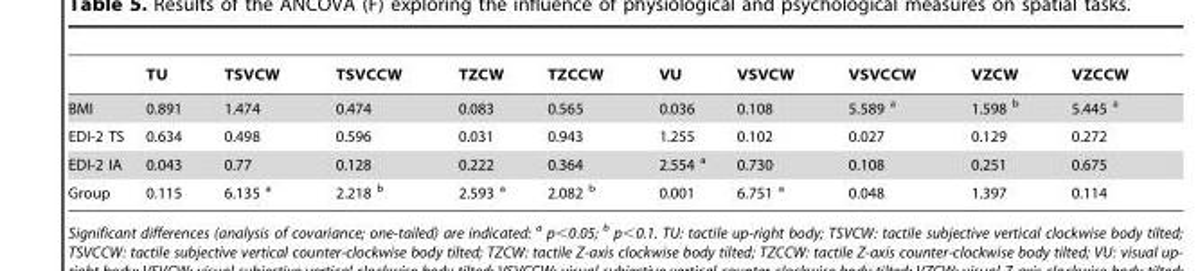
<table><thead><tr><td></td><td>TU</td><td>TSVCW</td><td>TSVCCW</td><td>TZCW</td><td>TZCCW</td><td>VU</td><td>VSVCW</td><td>VSVCCW</td><td>VZCW</td><td>VZCCW</td></tr></thead><tbody><tr><td>BMI</td><td>0.891</td><td>1.474</td><td>0.474</td><td>0.083</td><td>0.565</td><td>0.036</td><td>0.108</td><td>5.589 <sup>a</sup></td><td>1.598 <sup>b</sup></td><td>5.445 <sup>a</sup></td></tr><tr><td>EDI-2 TS</td><td>0.634</td><td>0.498</td><td>0.596</td><td>0.031</td><td>0.943</td><td>1.255</td><td>0.102</td><td>0.027</td><td>0.129</td><td>0.272</td></tr><tr><td>EDI-2 IA</td><td>0.043</td><td>0.77</td><td>0.128</td><td>0.222</td><td>0.364</td><td>2.554 <sup>a</sup></td><td>0.730</td><td>0.108</td><td>0.251</td><td>0.675</td></tr><tr><td>Group</td><td>0.115</td><td>6.135 <sup>a</sup></td><td>2.218 <sup>b</sup></td><td>2.593 <sup>a</sup></td><td>2.082 <sup>b</sup></td><td>0.001</td><td>6.751 <sup>a</sup></td><td>0.048</td><td>1.397</td><td>0.114</td></tr></tbody></table>